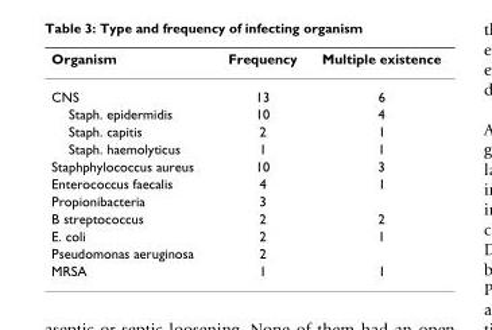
<table><thead><tr><td>Organism</td><td>Frequency</td><td>Multiple existence</td></tr></thead><tbody><tr><td>CNS</td><td>13</td><td>6</td></tr><tr><td>Staph. epidermidis</td><td>10</td><td>4</td></tr><tr><td>Staph. capitis</td><td>2</td><td>1</td></tr><tr><td>Staph. haemolyticus</td><td>1</td><td>1</td></tr><tr><td>Staphphylococcus aureus</td><td>10</td><td>3</td></tr><tr><td>Enterococcus faecalis</td><td>4</td><td>1</td></tr><tr><td>Propionibacteria</td><td>3</td><td></td></tr><tr><td>B streptococcus</td><td>2</td><td>2</td></tr><tr><td>E. coli</td><td>2</td><td>1</td></tr><tr><td>Pseudomonas aeruginosa</td><td>2</td><td></td></tr><tr><td>MRSA</td><td>1</td><td>1</td></tr></tbody></table>